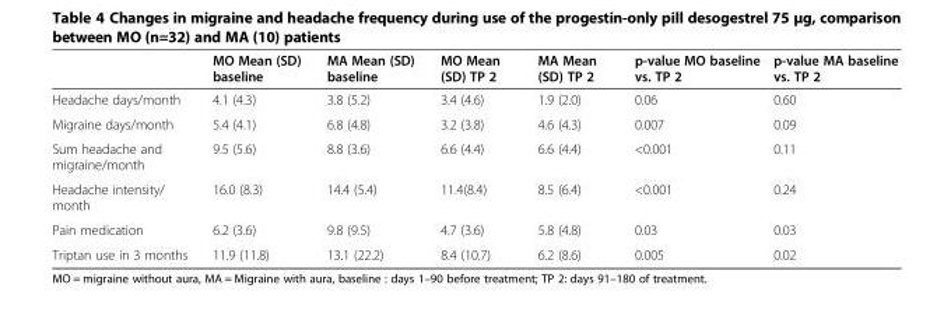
<table><thead><tr><td></td><td>MO Mean (SD) baseline</td><td>MA Mean (SD) baseline</td><td>MO Mean (SD) TP 2</td><td>MA Mean (SD) TP 2</td><td>p-value MO baseline vs. TP 2</td><td>p-value MA baseline vs. TP 2</td></tr></thead><tbody><tr><td>Headache days/month</td><td>4.1 (4.3)</td><td>3.8 (5.2)</td><td>3.4 (4.6)</td><td>1.9 (2.0)</td><td>0.06</td><td>0.60</td></tr><tr><td>Migraine days/month</td><td>5.4 (4.1)</td><td>6.8 (4.8)</td><td>3.2 (3.8)</td><td>4.6 (4.3)</td><td>0.007</td><td>0.09</td></tr><tr><td>Sum headache and migraine/month</td><td>9.5 (5.6)</td><td>8.8 (3.6)</td><td>6.6 (4.4)</td><td>6.6 (4.4)</td><td>&lt;0.001</td><td>0.11</td></tr><tr><td>Headache intensity/ month</td><td>16.0 (8.3)</td><td>14.4 (5.4)</td><td>11.4(8.4)</td><td>8.5 (6.4)</td><td>&lt;0.001</td><td>0.24</td></tr><tr><td>Pain medication</td><td>6.2 (3.6)</td><td>9.8 (9.5)</td><td>4.7 (3.6)</td><td>5.8 (4.8)</td><td>0.03</td><td>0.03</td></tr><tr><td>Triptan use in 3 months</td><td>11.9 (11.8)</td><td>13.1 (22.2)</td><td>8.4 (10.7)</td><td>6.2 (8.6)</td><td>0.005</td><td>0.02</td></tr></tbody></table>